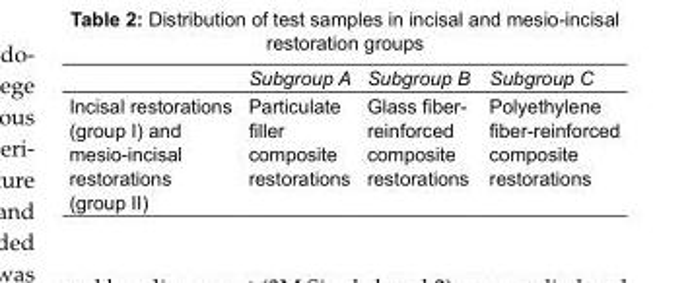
<table><thead><tr><td></td><td>Subgroup A</td><td>Subgroup B</td><td>Subgroup C</td></tr></thead><tbody><tr><td>Incisal restorations (group I) and mesio-incisal restorations (group II)</td><td>Particulate filler composite restorations</td><td>Glass fiber- reinforced composite restorations</td><td>Polyethylene fiber-reinforced composite restorations</td></tr></tbody></table>